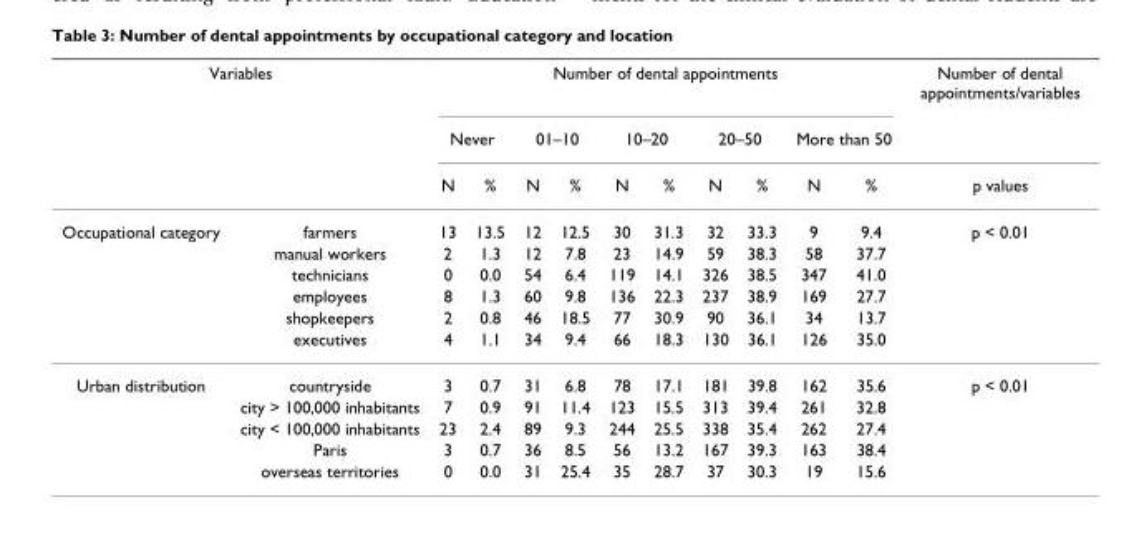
<table><thead><tr><td colspan="2">Variables</td><td colspan="10">Number of dental appointments</td><td rowspan="3">Number of dental appointments/variables p values</td></tr><tr><td rowspan="2"></td><td rowspan="2"></td><td colspan="2">Never</td><td colspan="2">01–10</td><td colspan="2">10–20</td><td colspan="2">20–50</td><td colspan="2">More than 50</td></tr><tr><td>N</td><td>%</td><td>N</td><td>%</td><td>N</td><td>%</td><td>N</td><td>%</td><td>N</td><td>%</td></tr></thead><tbody><tr><td rowspan="6">Occupational category</td><td>farmers</td><td>13</td><td>13.5</td><td>12</td><td>12.5</td><td>30</td><td>31.3</td><td>32</td><td>33.3</td><td>9</td><td>9.4</td><td>p &lt; 0.01</td></tr><tr><td>manual workers</td><td>2</td><td>1.3</td><td>12</td><td>7.8</td><td>23</td><td>14.9</td><td>59</td><td>38.3</td><td>58</td><td>37.7</td><td></td></tr><tr><td>technicians</td><td>0</td><td>0.0</td><td>54</td><td>6.4</td><td>119</td><td>14.1</td><td>326</td><td>38.5</td><td>347</td><td>41.0</td><td></td></tr><tr><td>employees</td><td>8</td><td>1.3</td><td>60</td><td>9.8</td><td>136</td><td>22.3</td><td>237</td><td>38.9</td><td>169</td><td>27.7</td><td></td></tr><tr><td>shopkeepers</td><td>2</td><td>0.8</td><td>46</td><td>18.5</td><td>77</td><td>30.9</td><td>90</td><td>36.1</td><td>34</td><td>13.7</td><td></td></tr><tr><td>executives</td><td>4</td><td>1.1</td><td>34</td><td>9.4</td><td>66</td><td>18.3</td><td>130</td><td>36.1</td><td>126</td><td>35.0</td><td></td></tr><tr><td rowspan="5">Urban distribution</td><td>countryside</td><td>3</td><td>0.7</td><td>31</td><td>6.8</td><td>78</td><td>17.1</td><td>181</td><td>39.8</td><td>162</td><td>35.6</td><td>p &lt; 0.01</td></tr><tr><td>city &gt; 100,000 inhabitants</td><td>7</td><td>0.9</td><td>91</td><td>11.4</td><td>123</td><td>15.5</td><td>313</td><td>39.4</td><td>261</td><td>32.8</td><td></td></tr><tr><td>city &lt; 100,000 inhabitants</td><td>23</td><td>2.4</td><td>89</td><td>9.3</td><td>244</td><td>25.5</td><td>338</td><td>35.4</td><td>262</td><td>27.4</td><td></td></tr><tr><td>Paris</td><td>3</td><td>0.7</td><td>36</td><td>8.5</td><td>56</td><td>13.2</td><td>167</td><td>39.3</td><td>163</td><td>38.4</td><td></td></tr><tr><td>overseas territories</td><td>0</td><td>0.0</td><td>31</td><td>25.4</td><td>35</td><td>28.7</td><td>37</td><td>30.3</td><td>19</td><td>15.6</td><td></td></tr></tbody></table>